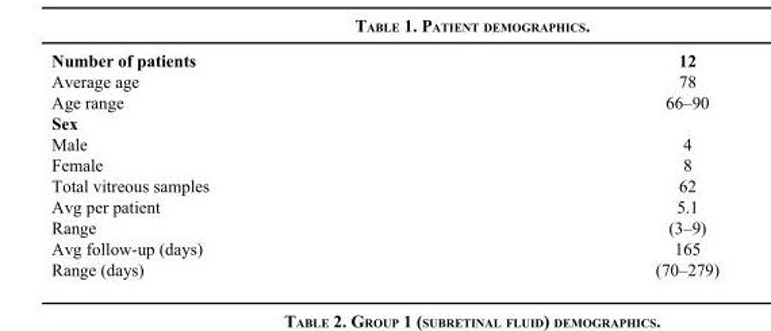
<table><thead><tr><td>Number of patients</td><td>12</td></tr></thead><tbody><tr><td>Average age</td><td>78</td></tr><tr><td>Age range</td><td>66–90</td></tr><tr><td colspan="2">Sex</td></tr><tr><td>Male</td><td>4</td></tr><tr><td>Female</td><td>8</td></tr><tr><td>Total vitreous samples</td><td>62</td></tr><tr><td>Avg per patient</td><td>5.1</td></tr><tr><td>Range</td><td>(3–9)</td></tr><tr><td>Avg follow-up (days)</td><td>165</td></tr><tr><td>Range (days)</td><td>(70–279)</td></tr></tbody></table>